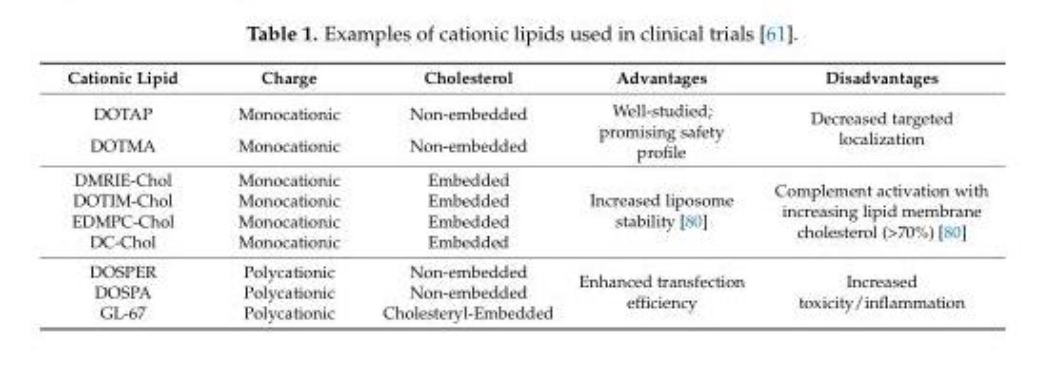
<table><thead><tr><td>Cationic Lipid</td><td>Charge</td><td>Cholesterol</td><td>Advantages</td><td>Disadvantages</td></tr></thead><tbody><tr><td>DOTAP</td><td>Monocationic</td><td>Non-embedded</td><td rowspan="2">Well-studied; promising safety profile</td><td rowspan="2">Decreased targeted localization</td></tr><tr><td>DOTMA</td><td>Monocationic</td><td>Non-embedded</td></tr><tr><td>DMRIE-Chol</td><td>Monocationic</td><td>Embedded</td><td rowspan="4">Increased liposome stability [80]</td><td rowspan="4">Complement activation with increasing lipid membrane cholesterol (&gt;70%) [80]</td></tr><tr><td>DOTIM-Chol</td><td>Monocationic</td><td>Embedded</td></tr><tr><td>EDMPC-Chol</td><td>Monocationic</td><td>Embedded</td></tr><tr><td>DC-Chol</td><td>Monocationic</td><td>Embedded</td></tr><tr><td>DOSPER</td><td>Polycationic</td><td>Non-embedded</td><td rowspan="3">Enhanced transfection efficiency</td><td rowspan="3">Increased toxicity/inflammation</td></tr><tr><td>DOSPA</td><td>Polycationic</td><td>Non-embedded</td></tr><tr><td>GL-67</td><td>Polycationic</td><td>Cholesteryl-Embedded</td></tr></tbody></table>